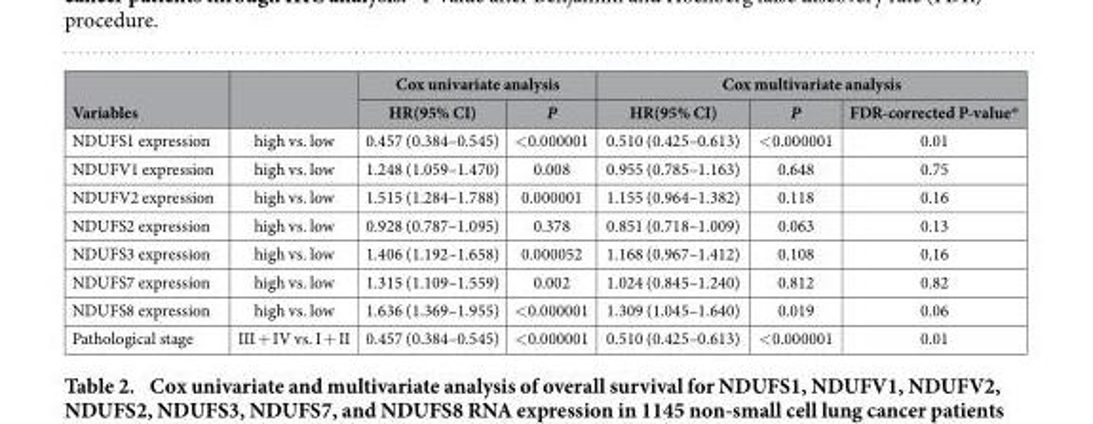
<table><thead><tr><td rowspan="2">Variables</td><td rowspan="2"></td><td colspan="2">Cox univariate analysis</td><td colspan="3">Cox multivariate analysis</td></tr><tr><td>HR(95% CI)</td><td>P</td><td>HR(95% CI)</td><td>P</td><td>FDR-corrected P-value*</td></tr></thead><tbody><tr><td>NDUFS1 expression</td><td>high vs. low</td><td>0.457 (0.384–0.545)</td><td>&lt; 0.000001</td><td>0.510 (0.425–0.613)</td><td>&lt; 0.000001</td><td>0.01</td></tr><tr><td>NDUFV1 expression</td><td>high vs. low</td><td>1.248 (1.059–1.470)</td><td>0.008</td><td>0.955 (0.785–1.163)</td><td>0.648</td><td>0.75</td></tr><tr><td>NDUFV2 expression</td><td>high vs. low</td><td>1.515 (1.284–1.788)</td><td>0.000001</td><td>1.155 (0.964–1.382)</td><td>0.118</td><td>0.16</td></tr><tr><td>NDUFS2 expression</td><td>high vs. low</td><td>0.928 (0.787–1.095)</td><td>0.378</td><td>0.851 (0.718–1.009)</td><td>0.063</td><td>0.13</td></tr><tr><td>NDUFS3 expression</td><td>high vs. low</td><td>1.406 (1.192–1.658)</td><td>0.000052</td><td>1.168 (0.967–1.412)</td><td>0.108</td><td>0.16</td></tr><tr><td>NDUFS7 expression</td><td>high vs. low</td><td>1.315 (1.109–1.559)</td><td>0.002</td><td>1.024 (0.845–1.240)</td><td>0.812</td><td>0.82</td></tr><tr><td>NDUFS8 expression</td><td>high vs. low</td><td>1.636 (1.369–1.955)</td><td>&lt; 0.000001</td><td>1.309 (1.045–1.640)</td><td>0.019</td><td>0.06</td></tr><tr><td>Pathological stage</td><td>III + IV vs. I + II</td><td>0.457 (0.384–0.545)</td><td>&lt; 0.000001</td><td>0.510 (0.425–0.613)</td><td>&lt; 0.000001</td><td>0.01</td></tr></tbody></table>